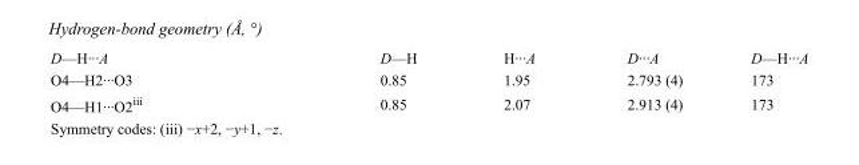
<table><tbody><tr><td>D—H···A</td><td>D—H</td><td>H···A</td><td>D···A</td><td>D—H···A</td></tr><tr><td>O4—H2···O3</td><td>0.85</td><td>1.95</td><td>2.793 (4)</td><td>173</td></tr><tr><td>O4—H1···O2<sup>iii</sup></td><td>0.85</td><td>2.07</td><td>2.913 (4)</td><td>173</td></tr></tbody></table>